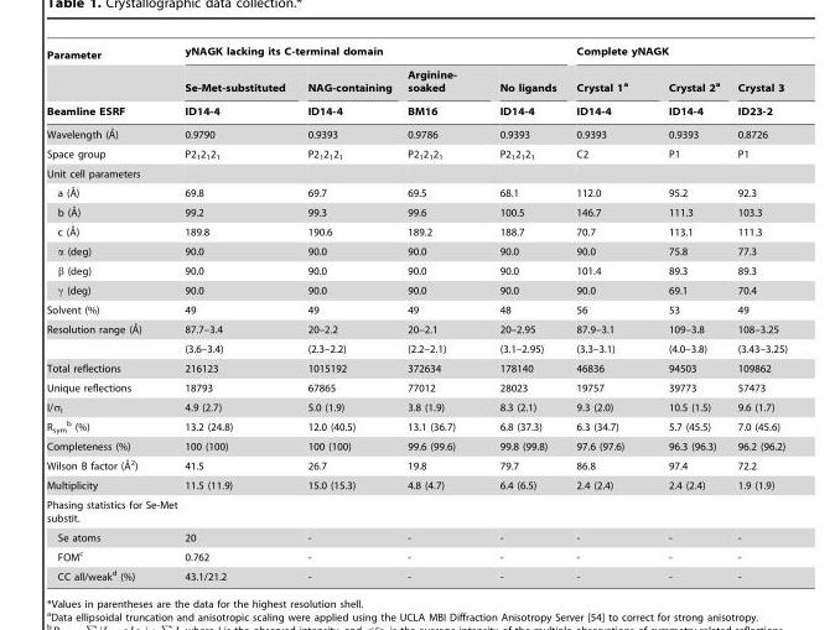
<table><thead><tr><td rowspan="3">Parameter Beamline ESRF</td><td colspan="4">yNAGK lacking its C-terminal domain</td><td colspan="3">Complete yNAGK</td></tr><tr><td rowspan="2">Se-Met-substituted ID14-4</td><td rowspan="2">NAG-containing ID14-4</td><td rowspan="2">Arginine- soaked BM16</td><td rowspan="2">No ligands ID14-4</td><td rowspan="2">Crystal 1<sup>a</sup> ID14-4</td><td rowspan="2">Crystal 2<sup>a</sup> ID14-4</td><td rowspan="2">Crystal 3 ID23-2</td></tr><tr></tr></thead><tbody><tr><td>Wavelength (A˚)</td><td>0.9790</td><td>0.9393</td><td>0.9786</td><td>0.9393</td><td>0.9393</td><td>0.9393</td><td>0.8726</td></tr><tr><td>Space group</td><td>P2<sub>1</sub>2<sub>1</sub>2<sub>1</sub></td><td>P2<sub>1</sub>2<sub>1</sub>2<sub>1</sub></td><td>P2<sub>1</sub>2<sub>1</sub>2<sub>1</sub></td><td>P2<sub>1</sub>2<sub>1</sub>2<sub>1</sub></td><td>C2</td><td>P1</td><td>P1</td></tr><tr><td colspan="8">Unit cell parameters</td></tr><tr><td>a (A˚)</td><td>69.8</td><td>69.7</td><td>69.5</td><td>68.1</td><td>112.0</td><td>95.2</td><td>92.3</td></tr><tr><td>b (A˚)</td><td>99.2</td><td>99.3</td><td>99.6</td><td>100.5</td><td>146.7</td><td>111.3</td><td>103.3</td></tr><tr><td>c (A˚)</td><td>189.8</td><td>190.6</td><td>189.2</td><td>188.7</td><td>70.7</td><td>113.1</td><td>111.3</td></tr><tr><td>α (deg)</td><td>90.0</td><td>90.0</td><td>90.0</td><td>90.0</td><td>90.0</td><td>75.8</td><td>77.3</td></tr><tr><td>β (deg)</td><td>90.0</td><td>90.0</td><td>90.0</td><td>90.0</td><td>101.4</td><td>89.3</td><td>89.3</td></tr><tr><td>γ (deg)</td><td>90.0</td><td>90.0</td><td>90.0</td><td>90.0</td><td>90.0</td><td>69.1</td><td>70.4</td></tr><tr><td>Solvent (%)</td><td>49</td><td>49</td><td>49</td><td>48</td><td>56</td><td>53</td><td>49</td></tr><tr><td rowspan="2">Resolution range (A˚)</td><td>87.7–3.4</td><td>20–2.2</td><td>20–2.1</td><td>20–2.95</td><td>87.9–3.1</td><td>109–3.8</td><td>108–3.25</td></tr><tr><td>(3.6–3.4)</td><td>(2.3–2.2)</td><td>(2.2–2.1)</td><td>(3.1–2.95)</td><td>(3.3–3.1)</td><td>(4.0–3.8)</td><td>(3.43–3.25)</td></tr><tr><td>Total reflections</td><td>216123</td><td>1015192</td><td>372634</td><td>178140</td><td>46836</td><td>94503</td><td>109862</td></tr><tr><td>Unique reflections</td><td>18793</td><td>67865</td><td>77012</td><td>28023</td><td>19757</td><td>39773</td><td>57473</td></tr><tr><td>I/σ<sub>I</sub></td><td>4.9 (2.7)</td><td>5.0 (1.9)</td><td>3.8 (1.9)</td><td>8.3 (2.1)</td><td>9.3 (2.0)</td><td>10.5 (1.5)</td><td>9.6 (1.7)</td></tr><tr><td>R<sub>sym</sub> b (%)</td><td>13.2 (24.8)</td><td>12.0 (40.5)</td><td>13.1 (36.7)</td><td>6.8 (37.3)</td><td>6.3 (34.7)</td><td>5.7 (45.5)</td><td>7.0 (45.6)</td></tr><tr><td>Completeness (%)</td><td>100 (100)</td><td>100 (100)</td><td>99.6 (99.6)</td><td>99.8 (99.8)</td><td>97.6 (97.6)</td><td>96.3 (96.3)</td><td>96.2 (96.2)</td></tr><tr><td>Wilson B factor (A˚2)</td><td>41.5</td><td>26.7</td><td>19.8</td><td>79.7</td><td>86.8</td><td>97.4</td><td>72.2</td></tr><tr><td>Multiplicity</td><td>11.5 (11.9)</td><td>15.0 (15.3)</td><td>4.8 (4.7)</td><td>6.4 (6.5)</td><td>2.4 (2.4)</td><td>2.4 (2.4)</td><td>1.9 (1.9)</td></tr><tr><td colspan="8">Phasing statistics for Se-Met substit.</td></tr><tr><td>Se atoms</td><td>20</td><td>-</td><td>-</td><td>-</td><td>-</td><td>-</td><td>-</td></tr><tr><td>FOM<sup>c</sup></td><td>0.762</td><td>-</td><td>-</td><td>-</td><td>-</td><td>-</td><td>-</td></tr><tr><td>CC all/weak<sup>d</sup> (%)</td><td>43.1/21.2</td><td>-</td><td>-</td><td>-</td><td>-</td><td>-</td><td>-</td></tr></tbody></table>